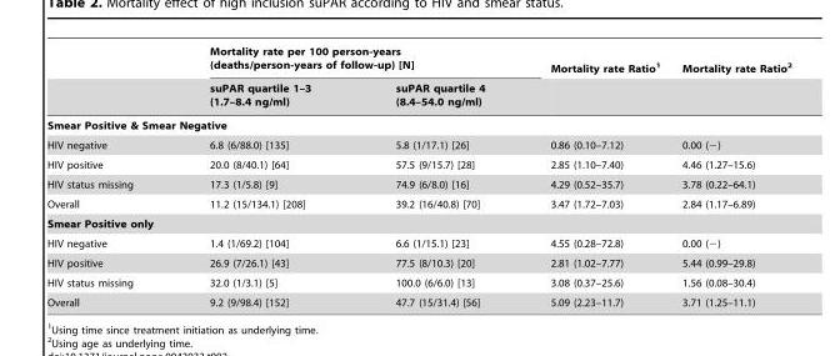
<table><thead><tr><td rowspan="2"></td><td colspan="2">Mortality rate per 100 person-years (deaths/person-years of follow-up) [N]</td><td rowspan="2">Mortality rate Ratio<sup>1</sup></td><td rowspan="2">Mortality rate Ratio<sup>2</sup></td></tr><tr><td>suPAR quartile 1–3 (1.7–8.4 ng/ml)</td><td>suPAR quartile 4 (8.4–54.0 ng/ml)</td></tr></thead><tbody><tr><td colspan="5">Smear Positive &amp; Smear Negative</td></tr><tr><td>HIV negative</td><td>6.8 (6/88.0) [135]</td><td>5.8 (1/17.1) [26]</td><td>0.86 (0.10–7.12)</td><td>0.00 (−)</td></tr><tr><td>HIV positive</td><td>20.0 (8/40.1) [64]</td><td>57.5 (9/15.7) [28]</td><td>2.85 (1.10–7.40)</td><td>4.46 (1.27–15.6)</td></tr><tr><td>HIV status missing</td><td>17.3 (1/5.8) [9]</td><td>74.9 (6/8.0) [16]</td><td>4.29 (0.52–35.7)</td><td>3.78 (0.22–64.1)</td></tr><tr><td>Overall</td><td>11.2 (15/134.1) [208]</td><td>39.2 (16/40.8) [70]</td><td>3.47 (1.72–7.03)</td><td>2.84 (1.17–6.89)</td></tr><tr><td colspan="5">Smear Positive only</td></tr><tr><td>HIV negative</td><td>1.4 (1/69.2) [104]</td><td>6.6 (1/15.1) [23]</td><td>4.55 (0.28–72.8)</td><td>0.00 (−)</td></tr><tr><td>HIV positive</td><td>26.9 (7/26.1) [43]</td><td>77.5 (8/10.3) [20]</td><td>2.81 (1.02–7.77)</td><td>5.44 (0.99–29.8)</td></tr><tr><td>HIV status missing</td><td>32.0 (1/3.1) [5]</td><td>100.0 (6/6.0) [13]</td><td>3.08 (0.37–25.6)</td><td>1.56 (0.08–30.4)</td></tr><tr><td>Overall</td><td>9.2 (9/98.4) [152]</td><td>47.7 (15/31.4) [56]</td><td>5.09 (2.23–11.7)</td><td>3.71 (1.25–11.1)</td></tr></tbody></table>